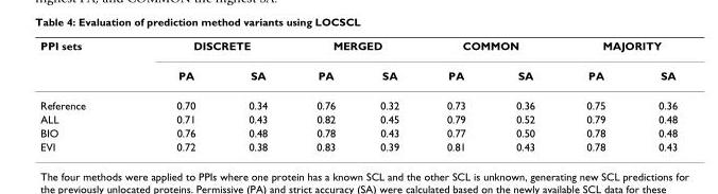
<table><thead><tr><td rowspan="2">PPI sets</td><td colspan="2">DISCRETE</td><td colspan="2">MERGED</td><td colspan="2">COMMON</td><td colspan="2">MAJORITY</td></tr><tr><td>PA</td><td>SA</td><td>PA</td><td>SA</td><td>PA</td><td>SA</td><td>PA</td><td>SA</td></tr></thead><tbody><tr><td>Reference</td><td>0.70</td><td>0.34</td><td>0.76</td><td>0.32</td><td>0.73</td><td>0.36</td><td>0.75</td><td>0.36</td></tr><tr><td>ALL</td><td>0.71</td><td>0.43</td><td>0.82</td><td>0.45</td><td>0.79</td><td>0.52</td><td>0.79</td><td>0.48</td></tr><tr><td>BIO</td><td>0.76</td><td>0.48</td><td>0.78</td><td>0.43</td><td>0.77</td><td>0.50</td><td>0.78</td><td>0.48</td></tr><tr><td>EVI</td><td>0.72</td><td>0.38</td><td>0.83</td><td>0.39</td><td>0.81</td><td>0.43</td><td>0.78</td><td>0.43</td></tr></tbody></table>